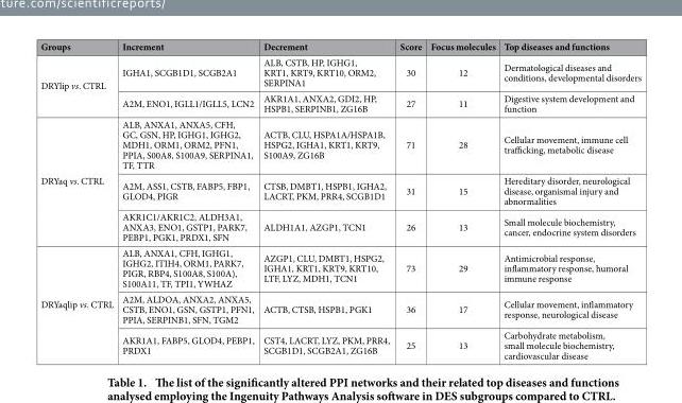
<table><thead><tr><td>Groups</td><td>Increment</td><td>Decrement</td><td>Score</td><td>Focus molecules</td><td>Top diseases and functions</td></tr></thead><tbody><tr><td rowspan="2">DRYlip vs. CTRL</td><td>IGHA1, SCGB1D1, SCGB2A1</td><td>ALB, CSTB, HP, IGHG1, KRT1, KRT9, KRT10, ORM2, SERPINA1</td><td>30</td><td>12</td><td>Dermatological diseases and conditions, developmental disorders</td></tr><tr><td>A2M, ENO1, IGLL1/IGLL5, LCN2</td><td>AKR1A1, ANXA2, GDI2, HP, HSPB1, SERPINB1, ZG16B</td><td>27</td><td>11</td><td>Digestive system development and function</td></tr><tr><td rowspan="3">DRYaq vs. CTRL</td><td>ALB, ANXA1, ANXA5, CFH, GC, GSN, HP, IGHG1, IGHG2, MDH1, ORM1, ORM2, PFN1, PPIA, S00A8, S100A9, SERPINA1, TF, TTR</td><td>ACTB, CLU, HSPA1A/HSPA1B, HSPG2, IGHA1, KRT1, KRT9, S100A9, ZG16B</td><td>71</td><td>28</td><td>Cellular movement, immune cell trafficking, metabolic disease</td></tr><tr><td>A2M, ASS1, CSTB, FABP5, FBP1, GLOD4, PIGR</td><td>CTSB, DMBT1, HSPB1, IGHA2, LACRT, PKM, PRR4, SCGB1D1</td><td>31</td><td>15</td><td>Hereditary disorder, neurological disease, organismal injury and abnormalities</td></tr><tr><td>AKR1C1/AKR1C2, ALDH3A1, ANXA3, ENO1, GSTP1, PARK7, PEBP1, PGK1, PRDX1, SFN</td><td>ALDH1A1, AZGP1, TCN1</td><td>26</td><td>13</td><td>Small molecule biochemistry, cancer, endocrine system disorders</td></tr><tr><td rowspan="3">DRYaqlip vs. CTRL</td><td>ALB, ANXA1, CFH, IGHG1, IGHG2, ITIH4, ORM1, PARK7, PIGR, RBP4, S100A8, S100A), S100A11, TF, TPI1, YWHAZ</td><td>AZGP1, CLU, DMBT1, HSPG2, IGHA1, KRT1, KRT9, KRT10, LTF, LYZ, MDH1, TCN1</td><td>73</td><td>29</td><td>Antimicrobial response, inflammatory response, humoral immune response</td></tr><tr><td>A2M, ALDOA, ANXA2, ANXA5, CSTB, ENO1, GSN, GSTP1, PFN1, PPIA, SERPINB1, SFN, TGM2</td><td>ACTB, CTSB, HSPB1, PGK1</td><td>36</td><td>17</td><td>Cellular movement, inflammatory response, neurological disease</td></tr><tr><td>AKR1A1, FABP5, GLOD4, PEBP1, PRDX1</td><td>CST4, LACRT, LYZ, PKM, PRR4, SCGB1D1, SCGB2A1, ZG16B</td><td>25</td><td>13</td><td>Carbohydrate metabolism, small molecule biochemistry, cardiovascular disease</td></tr></tbody></table>